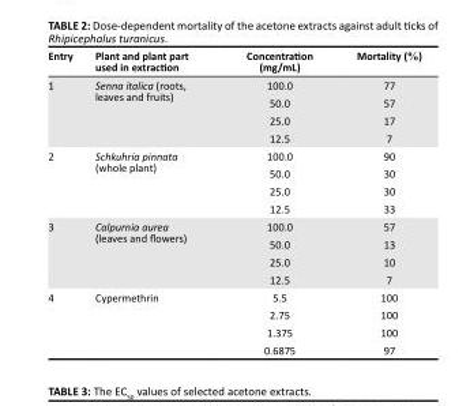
<table><thead><tr><td>Entry</td><td>Plant and plant part used in extraction</td><td>Concentration (mg/mL)</td><td>Mortality (%)</td></tr></thead><tbody><tr><td rowspan="4">1</td><td rowspan="4">Senna italica (roots, leaves and fruits)</td><td>100.0</td><td>77</td></tr><tr><td>50.0</td><td>57</td></tr><tr><td>25.0</td><td>17</td></tr><tr><td>12.5</td><td>7</td></tr><tr><td rowspan="4">2</td><td rowspan="4">Schkuhria pinnata (whole plant)</td><td>100.0</td><td>90</td></tr><tr><td>50.0</td><td>30</td></tr><tr><td>25.0</td><td>30</td></tr><tr><td>12.5</td><td>33</td></tr><tr><td rowspan="4">3</td><td rowspan="4">Calpurnia aurea (leaves and flowers)</td><td>100.0</td><td>57</td></tr><tr><td>50.0</td><td>13</td></tr><tr><td>25.0</td><td>10</td></tr><tr><td>12.5</td><td>7</td></tr><tr><td rowspan="4">4</td><td rowspan="4">Cypermethrin</td><td>5.5</td><td>100</td></tr><tr><td>2.75</td><td>100</td></tr><tr><td>1.375</td><td>100</td></tr><tr><td>0.6875</td><td>97</td></tr></tbody></table>